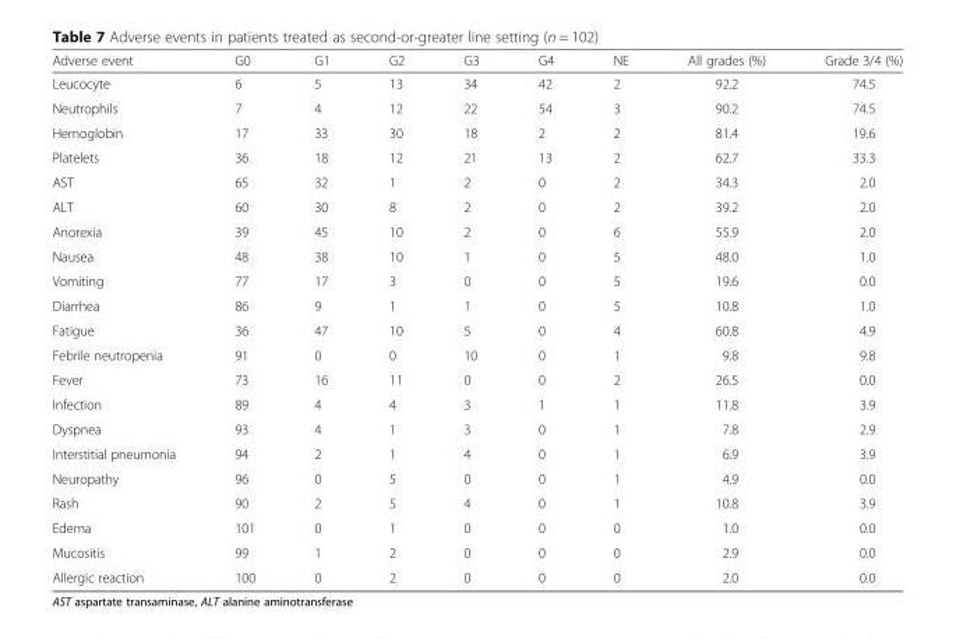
<table><thead><tr><td>Adverse event</td><td>G0</td><td>G1</td><td>G2</td><td>G3</td><td>G4</td><td>NE</td><td>All grades (%)</td><td>Grade 3/4 (%)</td></tr></thead><tbody><tr><td>Leucocyte</td><td>6</td><td>5</td><td>13</td><td>34</td><td>42</td><td>2</td><td>92.2</td><td>74.5</td></tr><tr><td>Neutrophils</td><td>7</td><td>4</td><td>12</td><td>22</td><td>54</td><td>3</td><td>90.2</td><td>74.5</td></tr><tr><td>Hemoglobin</td><td>17</td><td>33</td><td>30</td><td>18</td><td>2</td><td>2</td><td>81.4</td><td>19.6</td></tr><tr><td>Platelets</td><td>36</td><td>18</td><td>12</td><td>21</td><td>13</td><td>2</td><td>62.7</td><td>33.3</td></tr><tr><td>AST</td><td>65</td><td>32</td><td>1</td><td>2</td><td>0</td><td>2</td><td>34.3</td><td>2.0</td></tr><tr><td>ALT</td><td>60</td><td>30</td><td>8</td><td>2</td><td>0</td><td>2</td><td>39.2</td><td>2.0</td></tr><tr><td>Anorexia</td><td>39</td><td>45</td><td>10</td><td>2</td><td>0</td><td>6</td><td>55.9</td><td>2.0</td></tr><tr><td>Nausea</td><td>48</td><td>38</td><td>10</td><td>1</td><td>0</td><td>5</td><td>48.0</td><td>1.0</td></tr><tr><td>Vomiting</td><td>77</td><td>17</td><td>3</td><td>0</td><td>0</td><td>5</td><td>19.6</td><td>0.0</td></tr><tr><td>Diarrhea</td><td>86</td><td>9</td><td>1</td><td>1</td><td>0</td><td>5</td><td>10.8</td><td>1.0</td></tr><tr><td>Fatigue</td><td>36</td><td>47</td><td>10</td><td>5</td><td>0</td><td>4</td><td>60.8</td><td>4.9</td></tr><tr><td>Febrile neutropenia</td><td>91</td><td>0</td><td>0</td><td>10</td><td>0</td><td>1</td><td>9.8</td><td>9.8</td></tr><tr><td>Fever</td><td>73</td><td>16</td><td>11</td><td>0</td><td>0</td><td>2</td><td>26.5</td><td>0.0</td></tr><tr><td>Infection</td><td>89</td><td>4</td><td>4</td><td>3</td><td>1</td><td>1</td><td>11.8</td><td>3.9</td></tr><tr><td>Dyspnea</td><td>93</td><td>4</td><td>1</td><td>3</td><td>0</td><td>1</td><td>7.8</td><td>2.9</td></tr><tr><td>Interstitial pneumonia</td><td>94</td><td>2</td><td>1</td><td>4</td><td>0</td><td>1</td><td>6.9</td><td>3.9</td></tr><tr><td>Neuropathy</td><td>96</td><td>0</td><td>5</td><td>0</td><td>0</td><td>1</td><td>4.9</td><td>0.0</td></tr><tr><td>Rash</td><td>90</td><td>2</td><td>5</td><td>4</td><td>0</td><td>1</td><td>10.8</td><td>3.9</td></tr><tr><td>Edema</td><td>101</td><td>0</td><td>1</td><td>0</td><td>0</td><td>0</td><td>1.0</td><td>0.0</td></tr><tr><td>Mucositis</td><td>99</td><td>1</td><td>2</td><td>0</td><td>0</td><td>0</td><td>2.9</td><td>0.0</td></tr><tr><td>Allergic reaction</td><td>100</td><td>0</td><td>2</td><td>0</td><td>0</td><td>0</td><td>2.0</td><td>0.0</td></tr></tbody></table>